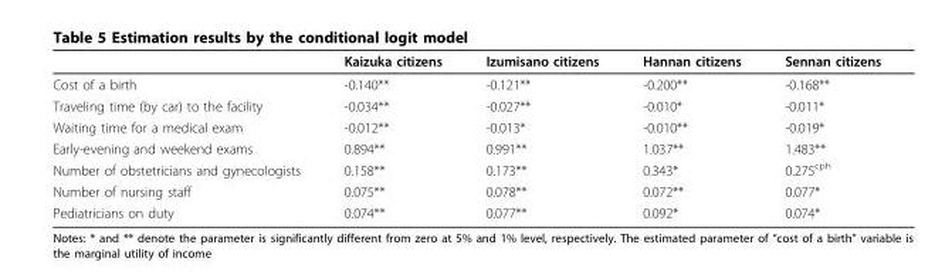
<table><thead><tr><td></td><td>Kaizuka citizens</td><td>Izumisano citizens</td><td>Hannan citizens</td><td>Sennan citizens</td></tr></thead><tbody><tr><td>Cost of a birth</td><td>-0.140**</td><td>-0.121**</td><td>-0.200**</td><td>-0.168**</td></tr><tr><td>Traveling time (by car) to the facility</td><td>-0.034**</td><td>-0.027**</td><td>-0.010*</td><td>-0.011*</td></tr><tr><td>Waiting time for a medical exam</td><td>-0.012**</td><td>-0.013*</td><td>-0.010**</td><td>-0.019*</td></tr><tr><td>Early-evening and weekend exams</td><td>0.894**</td><td>0.991**</td><td>1.037**</td><td>1.483**</td></tr><tr><td>Number of obstetricians and gynecologists</td><td>0.158**</td><td>0.173**</td><td>0.343*</td><td>0.275<sup>cph</sup></td></tr><tr><td>Number of nursing staff</td><td>0.075**</td><td>0.078**</td><td>0.072**</td><td>0.077*</td></tr><tr><td>Pediatricians on duty</td><td>0.074**</td><td>0.077**</td><td>0.092*</td><td>0.074*</td></tr></tbody></table>